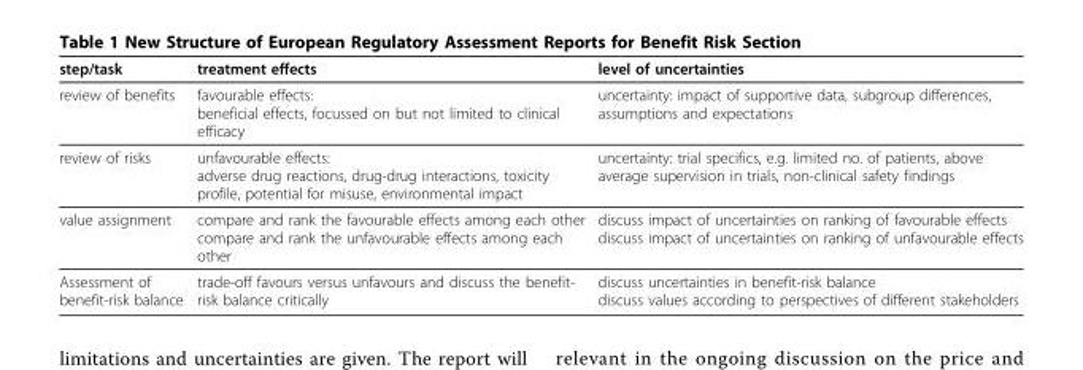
<table><thead><tr><td>step/task</td><td>treatment effects</td><td>level of uncertainties</td></tr></thead><tbody><tr><td>review of benefits</td><td>favourable effects: beneficial effects, focussed on but not limited to clinical efficacy</td><td>uncertainty: impact of supportive data, subgroup differences, assumptions and expectations</td></tr><tr><td>review of risks</td><td>unfavourable effects: adverse drug reactions, drug-drug interactions, toxicity profile, potential for misuse, environmental impact</td><td>uncertainty: trial specifics, e.g. limited no. of patients, above average supervision in trials, non-clinical safety findings</td></tr><tr><td>value assignment</td><td>compare and rank the favourable effects among each other compare and rank the unfavourable effects among each other</td><td>discuss impact of uncertainties on ranking of favourable effects discuss impact of uncertainties on ranking of unfavourable effects</td></tr><tr><td>Assessment of benefit-risk balance</td><td>trade-off favours versus unfavours and discuss the benefit- risk balance critically</td><td>discuss uncertainties in benefit-risk balance discuss values according to perspectives of different stakeholders</td></tr></tbody></table>